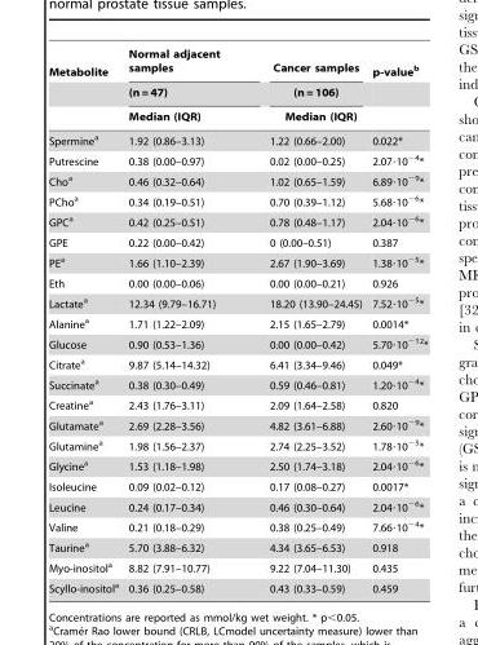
<table><thead><tr><td rowspan="3">Metabolite</td><td rowspan="3">Normal adjacent samples (n = 47) Median (IQR)</td><td rowspan="3">Cancer samples (n = 106) Median (IQR)</td><td rowspan="3">p-value<sup>b</sup></td></tr><tr></tr><tr></tr></thead><tbody><tr><td>Spermine<sup>a</sup></td><td>1.92 (0.86–3.13)</td><td>1.22 (0.66–2.00)</td><td>0.022*</td></tr><tr><td>Putrescine</td><td>0.38 (0.00–0.97)</td><td>0.02 (0.00–0.25)</td><td>2.07·10<sup>−4</sup>*</td></tr><tr><td>Cho<sup>a</sup></td><td>0.46 (0.32–0.64)</td><td>1.02 (0.65–1.59)</td><td>6.89·10<sup>−9</sup>*</td></tr><tr><td>PCho<sup>a</sup></td><td>0.34 (0.19–0.51)</td><td>0.70 (0.39–1.12)</td><td>5.68·10<sup>−6</sup>*</td></tr><tr><td>GPC<sup>a</sup></td><td>0.42 (0.25–0.51)</td><td>0.78 (0.48–1.17)</td><td>2.04·10<sup>−6</sup>*</td></tr><tr><td>GPE</td><td>0.22 (0.00–0.42)</td><td>0 (0.00–0.51)</td><td>0.387</td></tr><tr><td>PE<sup>a</sup></td><td>1.66 (1.10–2.39)</td><td>2.67 (1.90–3.69)</td><td>1.38·10<sup>−5</sup>*</td></tr><tr><td>Eth</td><td>0.00 (0.00–0.06)</td><td>0.00 (0.00–0.21)</td><td>0.926</td></tr><tr><td>Lactate<sup>a</sup></td><td>12.34 (9.79–16.71)</td><td>18.20 (13.90–24.45)</td><td>7.52·10<sup>−5</sup>*</td></tr><tr><td>Alanine<sup>a</sup></td><td>1.71 (1.22–2.09)</td><td>2.15 (1.65–2.79)</td><td>0.0014*</td></tr><tr><td>Glucose</td><td>0.90 (0.53–1.36)</td><td>0.00 (0.00–0.42)</td><td>5.70·10<sup>−12</sup>*</td></tr><tr><td>Citrate<sup>a</sup></td><td>9.87 (5.14–14.32)</td><td>6.41 (3.34–9.46)</td><td>0.049*</td></tr><tr><td>Succinate<sup>a</sup></td><td>0.38 (0.30–0.49)</td><td>0.59 (0.46–0.81)</td><td>1.20·10<sup>−4</sup>*</td></tr><tr><td>Creatine<sup>a</sup></td><td>2.43 (1.76–3.11)</td><td>2.09 (1.64–2.58)</td><td>0.820</td></tr><tr><td>Glutamate<sup>a</sup></td><td>2.69 (2.28–3.56)</td><td>4.82 (3.61–6.88)</td><td>2.60·10<sup>−9</sup>*</td></tr><tr><td>Glutamine<sup>a</sup></td><td>1.98 (1.56–2.37)</td><td>2.74 (2.25–3.52)</td><td>1.78·10<sup>−5</sup>*</td></tr><tr><td>Glycine<sup>a</sup></td><td>1.53 (1.18–1.98)</td><td>2.50 (1.74–3.18)</td><td>2.04·10<sup>−6</sup>*</td></tr><tr><td>Isoleucine</td><td>0.09 (0.02–0.12)</td><td>0.17 (0.08–0.27)</td><td>0.0017*</td></tr><tr><td>Leucine</td><td>0.24 (0.17–0.34)</td><td>0.46 (0.30–0.64)</td><td>2.04·10<sup>−6</sup>*</td></tr><tr><td>Valine</td><td>0.21 (0.18–0.29)</td><td>0.38 (0.25–0.49)</td><td>7.66·10<sup>−4</sup>*</td></tr><tr><td>Taurine<sup>a</sup></td><td>5.70 (3.88–6.32)</td><td>4.34 (3.65–6.53)</td><td>0.918</td></tr><tr><td>Myo-inositol<sup>a</sup></td><td>8.82 (7.91–10.77)</td><td>9.22 (7.04–11.30)</td><td>0.435</td></tr><tr><td>Scyllo-inositol<sup>a</sup></td><td>0.36 (0.25–0.58)</td><td>0.43 (0.33–0.59)</td><td>0.459</td></tr></tbody></table>